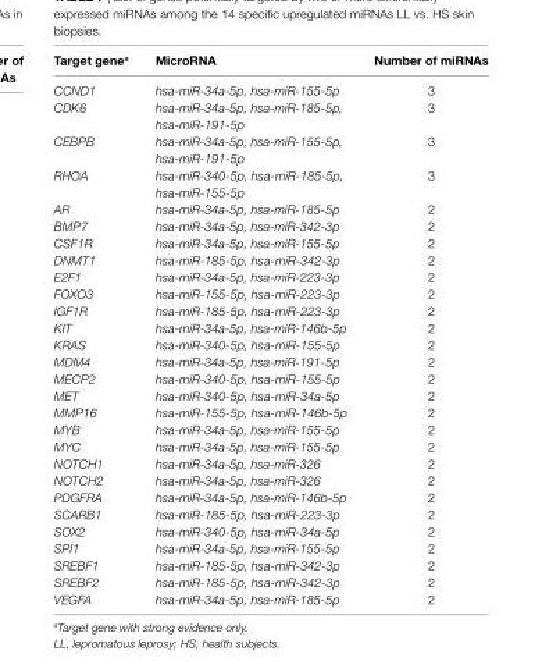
<table><thead><tr><td>Target gene<sup>a</sup></td><td>Microrna</td><td>number of mirnas</td></tr></thead><tbody><tr><td>CCND1</td><td>hsa-miR-34a-5p, hsa-miR-155-5p</td><td>3</td></tr><tr><td>CDK6</td><td>hsa-miR-34a-5p, hsa-miR-185-5p, hsa-miR-191-5p</td><td>3</td></tr><tr><td>CEBPB</td><td>hsa-miR-34a-5p, hsa-miR-155-5p, hsa-miR-191-5p</td><td>3</td></tr><tr><td>RHOA</td><td>hsa-miR-340-5p, hsa-miR-185-5p, hsa-miR-155-5p</td><td>3</td></tr><tr><td>AR</td><td>hsa-miR-34a-5p, hsa-miR-185-5p</td><td>2</td></tr><tr><td>BMP7</td><td>hsa-miR-34a-5p, hsa-miR-342-3p</td><td>2</td></tr><tr><td>CSF1R</td><td>hsa-miR-34a-5p, hsa-miR-155-5p</td><td>2</td></tr><tr><td>DNMT1</td><td>hsa-miR-185-5p, hsa-miR-342-3p</td><td>2</td></tr><tr><td>E2F1</td><td>hsa-miR-34a-5p, hsa-miR-223-3p</td><td>2</td></tr><tr><td>FOXO3</td><td>hsa-miR-155-5p, hsa-miR-223-3p</td><td>2</td></tr><tr><td>IGF1R</td><td>hsa-miR-185-5p, hsa-miR-223-3p</td><td>2</td></tr><tr><td>KIT</td><td>hsa-miR-34a-5p, hsa-miR-146b-5p</td><td>2</td></tr><tr><td>KRAS</td><td>hsa-miR-340-5p, hsa-miR-155-5p</td><td>2</td></tr><tr><td>MDM4</td><td>hsa-miR-34a-5p, hsa-miR-191-5p</td><td>2</td></tr><tr><td>MECP2</td><td>hsa-miR-340-5p, hsa-miR-155-5p</td><td>2</td></tr><tr><td>MET</td><td>hsa-miR-340-5p, hsa-miR-34a-5p</td><td>2</td></tr><tr><td>MMP16</td><td>hsa-miR-155-5p, hsa-miR-146b-5p</td><td>2</td></tr><tr><td>MYB</td><td>hsa-miR-34a-5p, hsa-miR-155-5p</td><td>2</td></tr><tr><td>MYC</td><td>hsa-miR-34a-5p, hsa-miR-155-5p</td><td>2</td></tr><tr><td>NOTCH1</td><td>hsa-miR-34a-5p, hsa-miR-326</td><td>2</td></tr><tr><td>NOTCH2</td><td>hsa-miR-34a-5p, hsa-miR-326</td><td>2</td></tr><tr><td>PDGFRA</td><td>hsa-miR-34a-5p, hsa-miR-146b-5p</td><td>2</td></tr><tr><td>SCARB1</td><td>hsa-miR-185-5p, hsa-miR-223-3p</td><td>2</td></tr><tr><td>SOX2</td><td>hsa-miR-340-5p, hsa-miR-34a-5p</td><td>2</td></tr><tr><td>SPI1</td><td>hsa-miR-34a-5p, hsa-miR-155-5p</td><td>2</td></tr><tr><td>SREBF1</td><td>hsa-miR-185-5p, hsa-miR-342-3p</td><td>2</td></tr><tr><td>SREBF2</td><td>hsa-miR-185-5p, hsa-miR-342-3p</td><td>2</td></tr><tr><td>VEGFA</td><td>hsa-miR-34a-5p, hsa-miR-185-5p</td><td>2</td></tr></tbody></table>